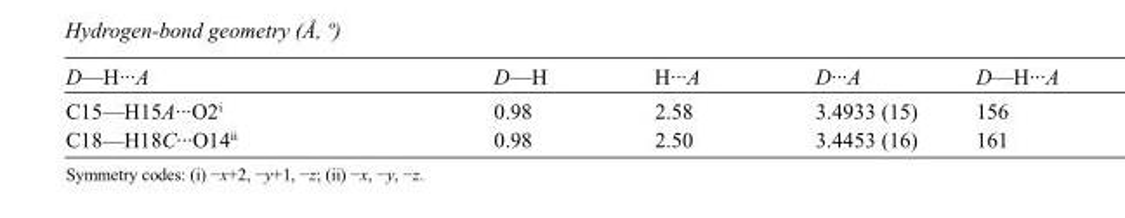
<table><tbody><tr><td>D—H···A</td><td>D—H</td><td>H···A</td><td>D···A</td><td>D—H···A</td></tr><tr><td>C15—H15A···O2<sup>i</sup></td><td>0.98</td><td>2.58</td><td>3.4933 (15)</td><td>156</td></tr><tr><td>C18—H18C···O14<sup>ii</sup></td><td>0.98</td><td>2.50</td><td>3.4453 (16)</td><td>161</td></tr></tbody></table>